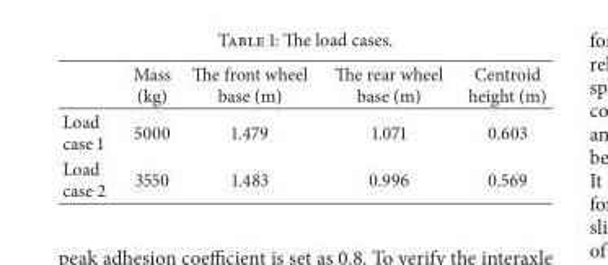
<table><thead><tr><td></td><td>Mass (kg)</td><td>The front wheel base (m)</td><td>The rear wheel base (m)</td><td>Centroid height (m)</td></tr></thead><tbody><tr><td>Load case 1</td><td>5000</td><td>1.479</td><td>1.071</td><td>0.603</td></tr><tr><td>Load case 2</td><td>3550</td><td>1.483</td><td>0.996</td><td>0.569</td></tr></tbody></table>